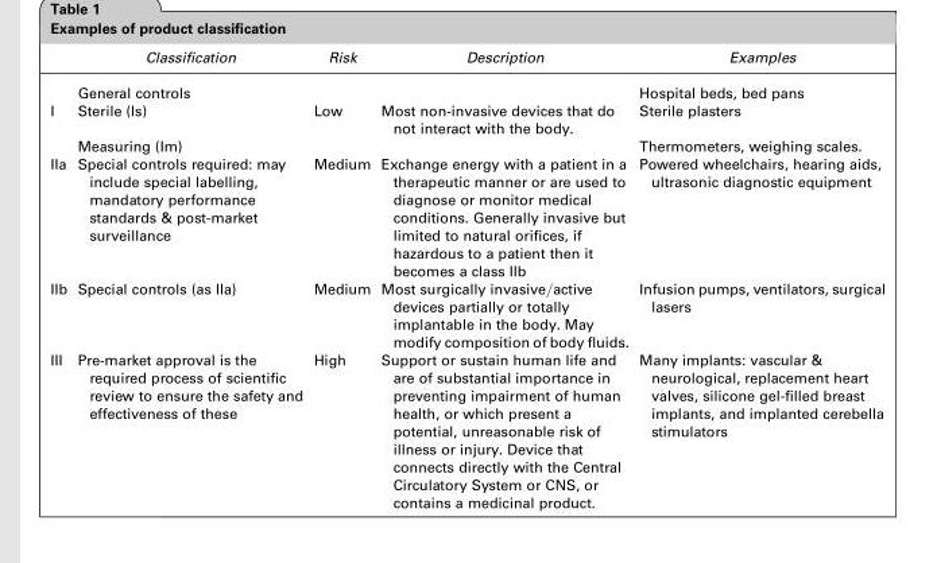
<table><thead><tr><td></td><td>Classification</td><td>Risk</td><td>Description</td><td>Examples</td></tr></thead><tbody><tr><td></td><td>General controls</td><td></td><td></td><td>Hospital beds, bed pans</td></tr><tr><td rowspan="2">I</td><td>Sterile (Is)</td><td>Low</td><td>Most non-invasive devices that do not interact with the body.</td><td>Sterile plasters</td></tr><tr><td>Measuring (Im)</td><td></td><td></td><td>Thermometers, weighing scales.</td></tr><tr><td>IIa</td><td>Special controls required: may include special labelling, mandatory performance standards &amp; post-market surveillance</td><td>Medium</td><td>Exchange energy with a patient in a therapeutic manner or are used to diagnose or monitor medical conditions. Generally invasive but limited to natural orifices, if hazardous to a patient then it becomes a class IIb</td><td>Powered wheelchairs, hearing aids, ultrasonic diagnostic equipment</td></tr><tr><td>IIb</td><td>Special controls (as IIa)</td><td>Medium</td><td>Most surgically invasive/active devices partially or totally implantable in the body. May modify composition of body fluids.</td><td>Infusion pumps, ventilators, surgical lasers</td></tr><tr><td>III</td><td>Pre-market approval is the required process of scientific review to ensure the safety and effectiveness of these</td><td>High</td><td>Support or sustain human life and are of substantial importance in preventing impairment of human health, or which present a potential, unreasonable risk of illness or injury. Device that connects directly with the Central Circulatory System or CNS, or contains a medicinal product.</td><td>Many implants: vascular &amp; neurological, replacement heart valves, silicone gel-filled breast implants, and implanted cerebella stimulators</td></tr></tbody></table>